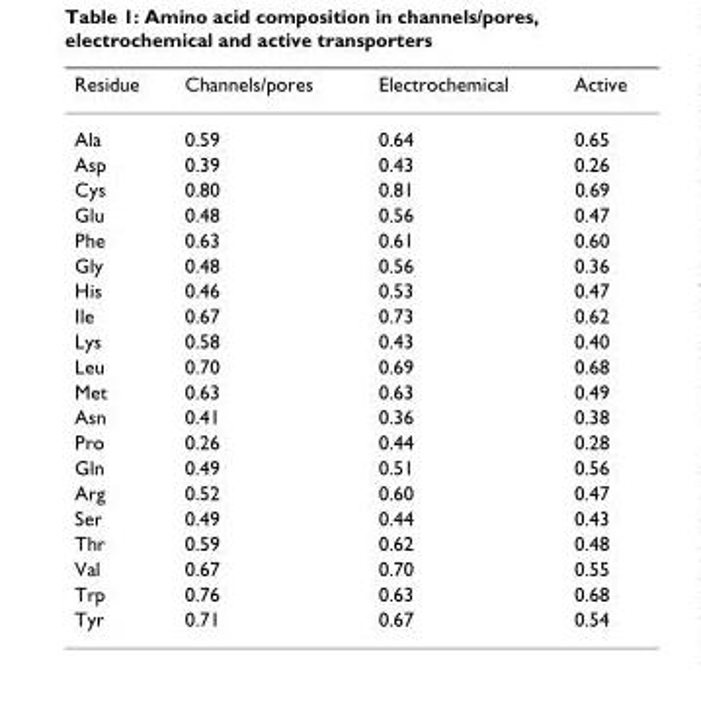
<table><thead><tr><td>Residue</td><td>Channels/pores</td><td>Electrochemical</td><td>Active</td></tr></thead><tbody><tr><td>Ala</td><td>0.59</td><td>0.64</td><td>0.65</td></tr><tr><td>Asp</td><td>0.39</td><td>0.43</td><td>0.26</td></tr><tr><td>Cys</td><td>0.80</td><td>0.81</td><td>0.69</td></tr><tr><td>Glu</td><td>0.48</td><td>0.56</td><td>0.47</td></tr><tr><td>Phe</td><td>0.63</td><td>0.61</td><td>0.60</td></tr><tr><td>Gly</td><td>0.48</td><td>0.56</td><td>0.36</td></tr><tr><td>His</td><td>0.46</td><td>0.53</td><td>0.47</td></tr><tr><td>Ile</td><td>0.67</td><td>0.73</td><td>0.62</td></tr><tr><td>Lys</td><td>0.58</td><td>0.43</td><td>0.40</td></tr><tr><td>Leu</td><td>0.70</td><td>0.69</td><td>0.68</td></tr><tr><td>Met</td><td>0.63</td><td>0.63</td><td>0.49</td></tr><tr><td>Asn</td><td>0.41</td><td>0.36</td><td>0.38</td></tr><tr><td>Pro</td><td>0.26</td><td>0.44</td><td>0.28</td></tr><tr><td>Gln</td><td>0.49</td><td>0.51</td><td>0.56</td></tr><tr><td>Arg</td><td>0.52</td><td>0.60</td><td>0.47</td></tr><tr><td>Ser</td><td>0.49</td><td>0.44</td><td>0.43</td></tr><tr><td>Thr</td><td>0.59</td><td>0.62</td><td>0.48</td></tr><tr><td>Val</td><td>0.67</td><td>0.70</td><td>0.55</td></tr><tr><td>Trp</td><td>0.76</td><td>0.63</td><td>0.68</td></tr><tr><td>Tyr</td><td>0.71</td><td>0.67</td><td>0.54</td></tr></tbody></table>